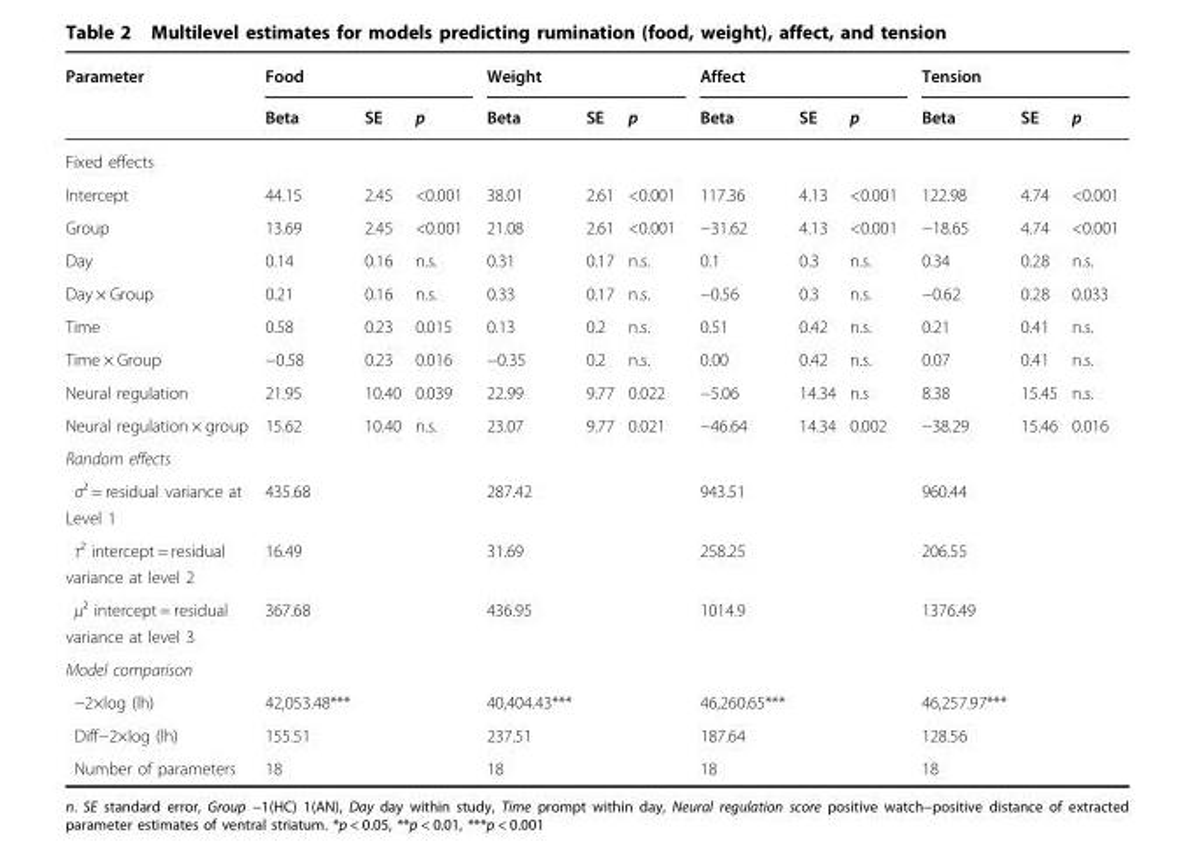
<table><thead><tr><td rowspan="2">Parameter</td><td colspan="3">Food</td><td colspan="3">Weight</td><td colspan="3">Affect</td><td colspan="3">Tension</td></tr><tr><td>Beta</td><td>SE</td><td>p</td><td>Beta</td><td>SE</td><td>p</td><td>Beta</td><td>SE</td><td>p</td><td>Beta</td><td>SE</td><td>p</td></tr></thead><tbody><tr><td colspan="13">Fixed effects</td></tr><tr><td>Intercept</td><td>44.15</td><td>2.45</td><td>&lt;0.001</td><td>38.01</td><td>2.61</td><td>&lt;0.001</td><td>117.36</td><td>4.13</td><td>&lt;0.001</td><td>122.98</td><td>4.74</td><td>&lt;0.001</td></tr><tr><td>Group</td><td>13.69</td><td>2.45</td><td>&lt;0.001</td><td>21.08</td><td>2.61</td><td>&lt;0.001</td><td>−31.62</td><td>4.13</td><td>&lt;0.001</td><td>−18.65</td><td>4.74</td><td>&lt;0.001</td></tr><tr><td>Day</td><td>0.14</td><td>0.16</td><td>n.s.</td><td>0.31</td><td>0.17</td><td>n.s.</td><td>0.1</td><td>0.3</td><td>n.s.</td><td>0.34</td><td>0.28</td><td>n.s.</td></tr><tr><td>Day × Group</td><td>0.21</td><td>0.16</td><td>n.s.</td><td>0.33</td><td>0.17</td><td>n.s.</td><td>−0.56</td><td>0.3</td><td>n.s.</td><td>−0.62</td><td>0.28</td><td>0.033</td></tr><tr><td>Time</td><td>0.58</td><td>0.23</td><td>0.015</td><td>0.13</td><td>0.2</td><td>n.s.</td><td>0.51</td><td>0.42</td><td>n.s.</td><td>0.21</td><td>0.41</td><td>n.s.</td></tr><tr><td>Time × Group</td><td>−0.58</td><td>0.23</td><td>0.016</td><td>−0.35</td><td>0.2</td><td>n.s.</td><td>0.00</td><td>0.42</td><td>n.s.</td><td>0.07</td><td>0.41</td><td>n.s.</td></tr><tr><td>Neural regulation</td><td>21.95</td><td>10.40</td><td>0.039</td><td>22.99</td><td>9.77</td><td>0.022</td><td>−5.06</td><td>14.34</td><td>n.s</td><td>8.38</td><td>15.45</td><td>n.s.</td></tr><tr><td>Neural regulation × group</td><td>15.62</td><td>10.40</td><td>n.s.</td><td>23.07</td><td>9.77</td><td>0.021</td><td>−46.64</td><td>14.34</td><td>0.002</td><td>−38.29</td><td>15.46</td><td>0.016</td></tr><tr><td colspan="13">Random effects</td></tr><tr><td>σ² = residual variance at Level 1</td><td>435.68</td><td></td><td></td><td>287.42</td><td></td><td></td><td>943.51</td><td></td><td></td><td>960.44</td><td></td><td></td></tr><tr><td>τ² intercept = residual variance at level 2</td><td>16.49</td><td></td><td></td><td>31.69</td><td></td><td></td><td>258.25</td><td></td><td></td><td>206.55</td><td></td><td></td></tr><tr><td>μ² intercept = residual variance at level 3</td><td>367.68</td><td></td><td></td><td>436.95</td><td></td><td></td><td>1014.9</td><td></td><td></td><td>1376.49</td><td></td><td></td></tr><tr><td colspan="13">Model comparison</td></tr><tr><td>−2×log (lh)</td><td>42,053.48***</td><td></td><td></td><td>40,404.43***</td><td></td><td></td><td>46,260.65***</td><td></td><td></td><td>46,257.97***</td><td></td><td></td></tr><tr><td>Diff−2×log (lh)</td><td>155.51</td><td></td><td></td><td>237.51</td><td></td><td></td><td>187.64</td><td></td><td></td><td>128.56</td><td></td><td></td></tr><tr><td>Number of parameters</td><td>18</td><td></td><td></td><td>18</td><td></td><td></td><td>18</td><td></td><td></td><td>18</td><td></td><td></td></tr></tbody></table>